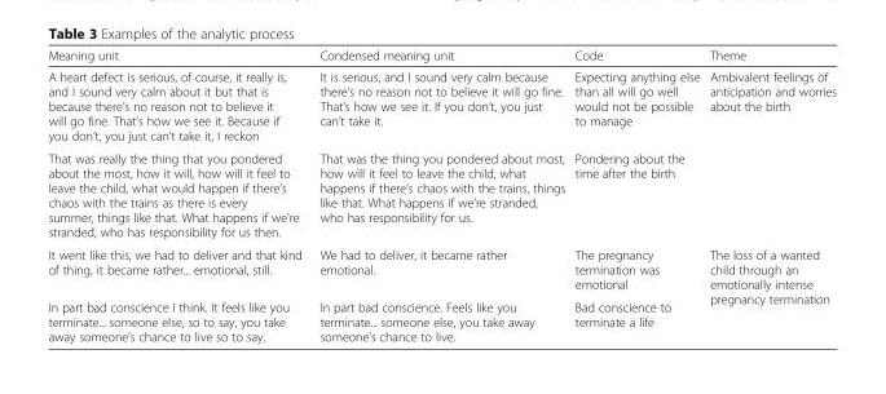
<table><thead><tr><td>Meaning unit</td><td>Condensed meaning unit</td><td>Code</td><td>Theme</td></tr></thead><tbody><tr><td>A heart defect is serious, of course, it really is, and I sound very calm about it but that is because there’s no reason not to believe it will go fine. That’s how we see it. Because if you don’t, you just can’t take it, I reckon</td><td>It is serious, and I sound very calm because there’s no reason not to believe it will go fine. That’s how we see it. If you don’t, you just can’t take it.</td><td>Expecting anything else than all will go well would not be possible to manage</td><td rowspan="2">Ambivalent feelings of anticipation and worries about the birth</td></tr><tr><td>That was really the thing that you pondered about the most, how it will, how will it feel to leave the child, what would happen if there’s chaos with the trains as there is every summer, things like that. What happens if we’re stranded, who has responsibility for us then.</td><td>That was the thing you pondered about most, how will it feel to leave the child, what happens if there’s chaos with the trains, things like that. What happens if we’re stranded, who has responsibility for us.</td><td>Pondering about the time after the birth</td></tr><tr><td>It went like this, we had to deliver and that kind of thing, it became rather... emotional, still.</td><td>We had to deliver, it became rather emotional.</td><td>The pregnancy termination was emotional</td><td rowspan="2">The loss of a wanted child through an emotionally intense pregnancy termination</td></tr><tr><td>In part bad conscience I think. It feels like you terminate... someone else, so to say, you take away someone’s chance to live so to say.</td><td>In part bad conscience. Feels like you terminate... someone else, you take away someone’s chance to live.</td><td>Bad conscience to terminate a life</td></tr></tbody></table>